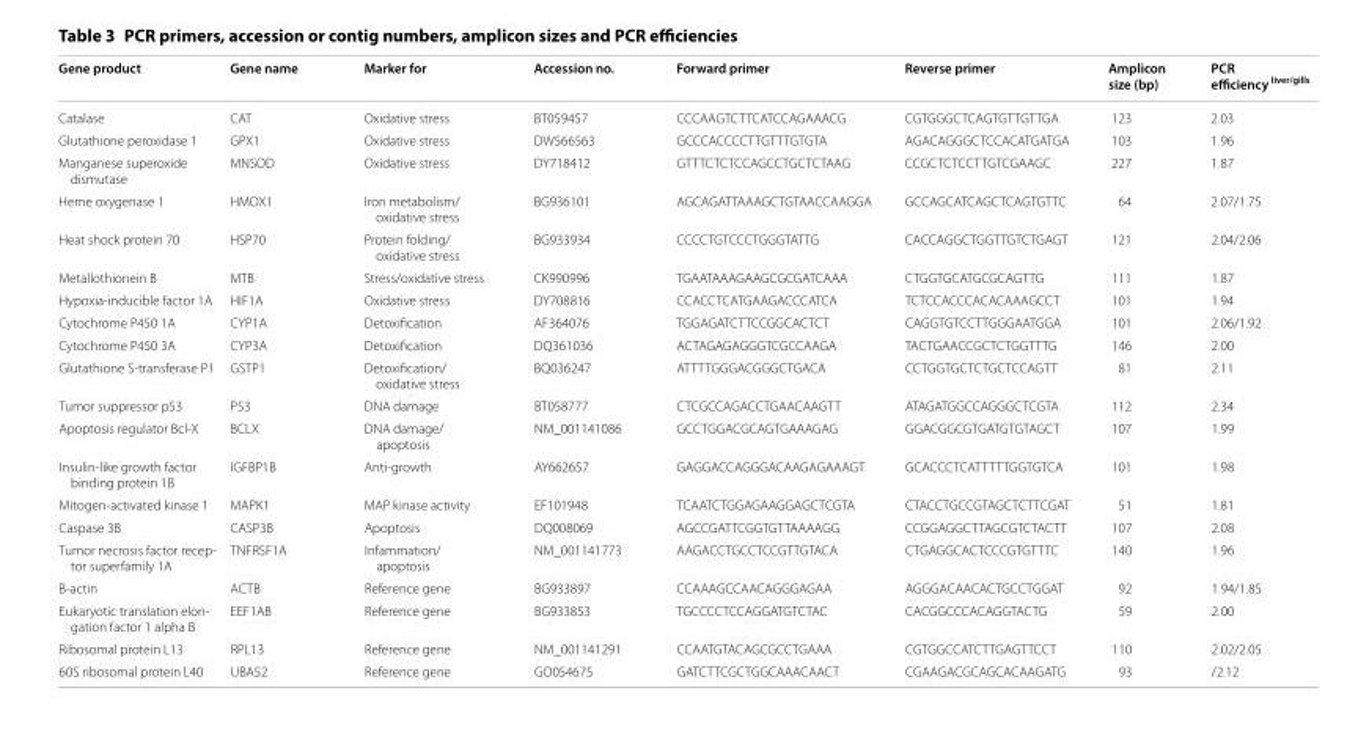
<table><thead><tr><td>Gene product</td><td>Gene name</td><td>Marker for</td><td>Accession no.</td><td>Forward primer</td><td>Reverse primer</td><td>Amplicon size (bp)</td><td>PCR efficiency <sup>liver/gills</sup></td></tr></thead><tbody><tr><td>Catalase</td><td>CAT</td><td>Oxidative stress</td><td>BT059457</td><td>CCCAAGTCTTCATCCAGAAACG</td><td>CGTGGGCTCAGTGTTGTTGA</td><td>123</td><td>2.03</td></tr><tr><td>Glutathione peroxidase 1</td><td>GPX1</td><td>Oxidative stress</td><td>DW566563</td><td>GCCCACCCCTTGTTTGTGTA</td><td>AGACAGGGCTCCACATGATGA</td><td>103</td><td>1.96</td></tr><tr><td>Manganese superoxide dismutase</td><td>MNSOD</td><td>Oxidative stress</td><td>DY718412</td><td>GTTTCTCTCCAGCCTGCTCTAAG</td><td>CCGCTCTCCTTGTCGAAGC</td><td>227</td><td>1.87</td></tr><tr><td>Heme oxygenase 1</td><td>HMOX1</td><td>Iron metabolism/ oxidative stress</td><td>BG936101</td><td>AGCAGATTAAAGCTGTAACCAAGGA</td><td>GCCAGCATCAGCTCAGTGTTC</td><td>64</td><td>2.07/1.75</td></tr><tr><td>Heat shock protein 70</td><td>HSP70</td><td>Protein folding/ oxidative stress</td><td>BG933934</td><td>CCCCTGTCCCTGGGTATTG</td><td>CACCAGGCTGGTTGTCTGAGT</td><td>121</td><td>2.04/2.06</td></tr><tr><td>Metallothionein B</td><td>MTB</td><td>Stress/oxidative stress</td><td>CK990996</td><td>TGAATAAAGAAGCGCGATCAAA</td><td>CTGGTGCATGCGCAGTTG</td><td>111</td><td>1.87</td></tr><tr><td>Hypoxia-inducible factor 1A</td><td>HIF1A</td><td>Oxidative stress</td><td>DY708816</td><td>CCACCTCATGAAGACCCATCA</td><td>TCTCCACCCACACAAAGCCT</td><td>101</td><td>1.94</td></tr><tr><td>Cytochrome P450 1A</td><td>CYP1A</td><td>Detoxification</td><td>AF364076</td><td>TGGAGATCTTCCGGCACTCT</td><td>CAGGTGTCCTTGGGAATGGA</td><td>101</td><td>2.06/1.92</td></tr><tr><td>Cytochrome P450 3A</td><td>CYP3A</td><td>Detoxification</td><td>DQ361036</td><td>ACTAGAGAGGGTCGCCAAGA</td><td>TACTGAACCGCTCTGGTTTG</td><td>146</td><td>2.00</td></tr><tr><td>Glutathione S-transferase P1</td><td>GSTP1</td><td>Detoxification/ oxidative stress</td><td>BQ036247</td><td>ATTTTGGGACGGGCTGACA</td><td>CCTGGTGCTCTGCTCCAGTT</td><td>81</td><td>2.11</td></tr><tr><td>Tumor suppressor p53</td><td>P53</td><td>DNA damage</td><td>BT058777</td><td>CTCGCCAGACCTGAACAAGTT</td><td>ATAGATGGCCAGGGCTCGTA</td><td>112</td><td>2.34</td></tr><tr><td>Apoptosis regulator Bcl-X</td><td>BCLX</td><td>DNA damage/ apoptosis</td><td>NM_001141086</td><td>GCCTGGACGCAGTGAAAGAG</td><td>GGACGGCGTGATGTGTAGCT</td><td>107</td><td>1.99</td></tr><tr><td>Insulin-like growth factor binding protein 1B</td><td>IGFBP1B</td><td>Anti-growth</td><td>AY662657</td><td>GAGGACCAGGGACAAGAGAAAGT</td><td>GCACCCTCATTTTTGGTGTCA</td><td>101</td><td>1.98</td></tr><tr><td>Mitogen-activated kinase 1</td><td>MAPK1</td><td>MAP kinase activity</td><td>EF101948</td><td>TCAATCTGGAGAAGGAGCTCGTA</td><td>CTACCTGCCGTAGCTCTTCGAT</td><td>51</td><td>1.81</td></tr><tr><td>Caspase 3B</td><td>CASP3B</td><td>Apoptosis</td><td>DQ008069</td><td>AGCCGATTCGGTGTTAAAAGG</td><td>CCGGAGGCTTAGCGTCTACTT</td><td>107</td><td>2.08</td></tr><tr><td>Tumor necrosis factor recep- tor superfamily 1A</td><td>TNFRSF1A</td><td>Infammation/ apoptosis</td><td>NM_001141773</td><td>AAGACCTGCCTCCGTTGTACA</td><td>CTGAGGCACTCCCGTGTTTC</td><td>140</td><td>1.96</td></tr><tr><td>B-actin</td><td>ACTB</td><td>Reference gene</td><td>BG933897</td><td>CCAAAGCCAACAGGGAGAA</td><td>AGGGACAACACTGCCTGGAT</td><td>92</td><td>1.94/1.85</td></tr><tr><td>Eukaryotic translation elon- gation factor 1 alpha B</td><td>EEF1AB</td><td>Reference gene</td><td>BG933853</td><td>TGCCCCTCCAGGATGTCTAC</td><td>CACGGCCCACAGGTACTG</td><td>59</td><td>2.00</td></tr><tr><td>Ribosomal protein L13</td><td>RPL13</td><td>Reference gene</td><td>NM_001141291</td><td>CCAATGTACAGCGCCTGAAA</td><td>CGTGGCCATCTTGAGTTCCT</td><td>110</td><td>2.02/2.05</td></tr><tr><td>60S ribosomal protein L40</td><td>UBA52</td><td>Reference gene</td><td>GO054675</td><td>GATCTTCGCTGGCAAACAACT</td><td>CGAAGACGCAGCACAAGATG</td><td>93</td><td>/2.12</td></tr></tbody></table>